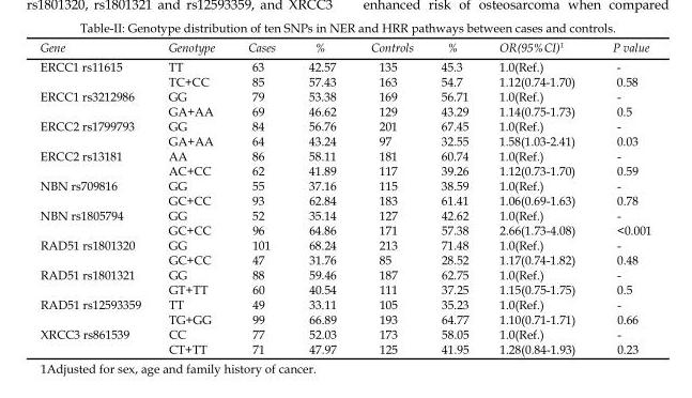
<table><thead><tr><td>Gene</td><td>Genotype</td><td>Cases</td><td>%</td><td>Controls</td><td>%</td><td>OR(95%CI)<sup>1</sup></td><td>P value</td></tr></thead><tbody><tr><td rowspan="2">ERCC1 rs11615</td><td>TT</td><td>63</td><td>42.57</td><td>135</td><td>45.3</td><td>1.0(Ref.)</td><td>-</td></tr><tr><td>TC+CC</td><td>85</td><td>57.43</td><td>163</td><td>54.7</td><td>1.12(0.74-1.70)</td><td>0.58</td></tr><tr><td rowspan="2">ERCC1 rs3212986</td><td>GG</td><td>79</td><td>53.38</td><td>169</td><td>56.71</td><td>1.0(Ref.)</td><td>-</td></tr><tr><td>GA+AA</td><td>69</td><td>46.62</td><td>129</td><td>43.29</td><td>1.14(0.75-1.73)</td><td>0.5</td></tr><tr><td rowspan="2">ERCC2 rs1799793</td><td>GG</td><td>84</td><td>56.76</td><td>201</td><td>67.45</td><td>1.0(Ref.)</td><td>-</td></tr><tr><td>GA+AA</td><td>64</td><td>43.24</td><td>97</td><td>32.55</td><td>1.58(1.03-2.41)</td><td>0.03</td></tr><tr><td rowspan="2">ERCC2 rs13181</td><td>AA</td><td>86</td><td>58.11</td><td>181</td><td>60.74</td><td>1.0(Ref.)</td><td>-</td></tr><tr><td>AC+CC</td><td>62</td><td>41.89</td><td>117</td><td>39.26</td><td>1.12(0.73-1.70)</td><td>0.59</td></tr><tr><td rowspan="2">NBN rs709816</td><td>GG</td><td>55</td><td>37.16</td><td>115</td><td>38.59</td><td>1.0(Ref.)</td><td>-</td></tr><tr><td>GC+CC</td><td>93</td><td>62.84</td><td>183</td><td>61.41</td><td>1.06(0.69-1.63)</td><td>0.78</td></tr><tr><td rowspan="2">NBN rs1805794</td><td>GG</td><td>52</td><td>35.14</td><td>127</td><td>42.62</td><td>1.0(Ref.)</td><td>-</td></tr><tr><td>GC+CC</td><td>96</td><td>64.86</td><td>171</td><td>57.38</td><td>2.66(1.73-4.08)</td><td>&lt;0.001</td></tr><tr><td rowspan="2">RAD51 rs1801320</td><td>GG</td><td>101</td><td>68.24</td><td>213</td><td>71.48</td><td>1.0(Ref.)</td><td>-</td></tr><tr><td>GC+CC</td><td>47</td><td>31.76</td><td>85</td><td>28.52</td><td>1.17(0.74-1.82)</td><td>0.48</td></tr><tr><td rowspan="2">RAD51 rs1801321</td><td>GG</td><td>88</td><td>59.46</td><td>187</td><td>62.75</td><td>1.0(Ref.)</td><td>-</td></tr><tr><td>GT+TT</td><td>60</td><td>40.54</td><td>111</td><td>37.25</td><td>1.15(0.75-1.75)</td><td>0.5</td></tr><tr><td rowspan="2">RAD51 rs12593359</td><td>TT</td><td>49</td><td>33.11</td><td>105</td><td>35.23</td><td>1.0(Ref.)</td><td>-</td></tr><tr><td>TG+GG</td><td>99</td><td>66.89</td><td>193</td><td>64.77</td><td>1.10(0.71-1.71)</td><td>0.66</td></tr><tr><td rowspan="2">XRCC3 rs861539</td><td>CC</td><td>77</td><td>52.03</td><td>173</td><td>58.05</td><td>1.0(Ref.)</td><td>-</td></tr><tr><td>CT+TT</td><td>71</td><td>47.97</td><td>125</td><td>41.95</td><td>1.28(0.84-1.93)</td><td>0.23</td></tr></tbody></table>